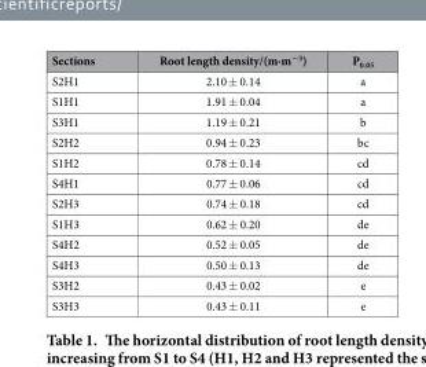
<table><thead><tr><td>Sections</td><td>Root length density/(m·m<sup>−3</sup>)</td><td>P<sub>0.05</sub></td></tr></thead><tbody><tr><td>S2H1</td><td>2.10 ± 0.14</td><td>a</td></tr><tr><td>S1H1</td><td>1.91 ± 0.04</td><td>a</td></tr><tr><td>S3H1</td><td>1.19 ± 0.21</td><td>b</td></tr><tr><td>S2H2</td><td>0.94 ± 0.23</td><td>bc</td></tr><tr><td>S1H2</td><td>0.78 ± 0.14</td><td>cd</td></tr><tr><td>S4H1</td><td>0.77 ± 0.06</td><td>cd</td></tr><tr><td>S2H3</td><td>0.74 ± 0.18</td><td>cd</td></tr><tr><td>S1H3</td><td>0.62 ± 0.20</td><td>de</td></tr><tr><td>S4H2</td><td>0.52 ± 0.05</td><td>de</td></tr><tr><td>S4H3</td><td>0.50 ± 0.13</td><td>de</td></tr><tr><td>S3H2</td><td>0.43 ± 0.02</td><td>e</td></tr><tr><td>S3H3</td><td>0.43 ± 0.11</td><td>e</td></tr></tbody></table>